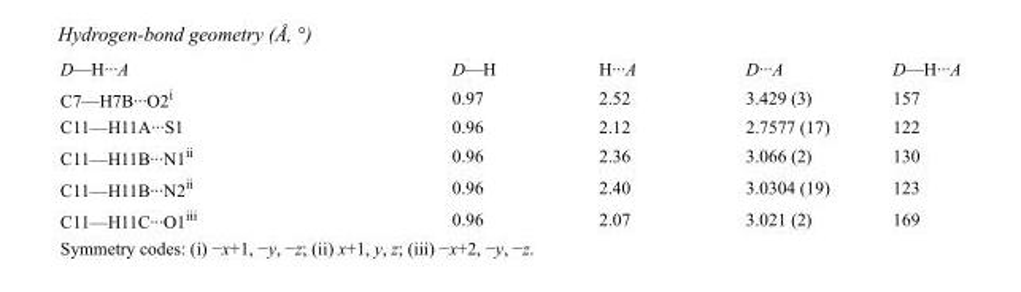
<table><tbody><tr><td>D—H···A</td><td>D—H</td><td>H···A</td><td>D···A</td><td>D—H···A</td></tr><tr><td>C7—H7B···O2<sup>i</sup></td><td>0.97</td><td>2.52</td><td>3.429 (3)</td><td>157</td></tr><tr><td>C11—H11A···S1</td><td>0.96</td><td>2.12</td><td>2.7577 (17)</td><td>122</td></tr><tr><td>C11—H11B···N1<sup>ii</sup></td><td>0.96</td><td>2.36</td><td>3.066 (2)</td><td>130</td></tr><tr><td>C11—H11B···N2<sup>ii</sup></td><td>0.96</td><td>2.40</td><td>3.0304 (19)</td><td>123</td></tr><tr><td>C11—H11C···O1<sup>iii</sup></td><td>0.96</td><td>2.07</td><td>3.021 (2)</td><td>169</td></tr></tbody></table>